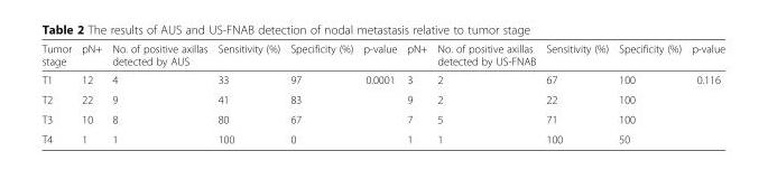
<table><thead><tr><td>Tumor stage</td><td>pN+</td><td>No. of positive axillas detected by AUS</td><td>Sensitivity (%)</td><td>Specificity (%)</td><td>p-value</td><td>pN+</td><td>No. of positive axillas detected by US-FNAB</td><td>Sensitivity (%)</td><td>Specificity (%)</td><td>p-value</td></tr></thead><tbody><tr><td>T1</td><td>12</td><td>4</td><td>33</td><td>97</td><td rowspan="4">0.0001</td><td>3</td><td>2</td><td>67</td><td>100</td><td rowspan="4">0.116</td></tr><tr><td>T2</td><td>22</td><td>9</td><td>41</td><td>83</td><td>9</td><td>2</td><td>22</td><td>100</td></tr><tr><td>T3</td><td>10</td><td>8</td><td>80</td><td>67</td><td>7</td><td>5</td><td>71</td><td>100</td></tr><tr><td>T4</td><td>1</td><td>1</td><td>100</td><td>0</td><td>1</td><td>1</td><td>100</td><td>50</td></tr></tbody></table>